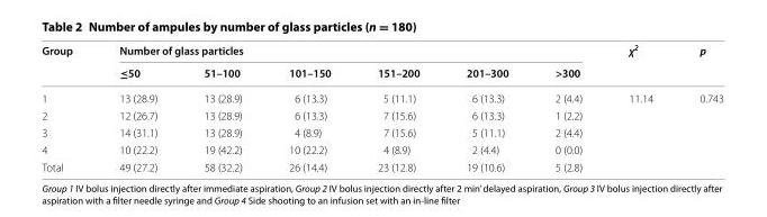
<table><thead><tr><td rowspan="2">Group</td><td colspan="6">Number of glass particles</td><td rowspan="2">χ<sup>2</sup></td><td rowspan="2">p</td></tr><tr><td>≤50</td><td>51–100</td><td>101–150</td><td>151–200</td><td>201–300</td><td>&gt;300</td></tr></thead><tbody><tr><td>1</td><td>13 (28.9)</td><td>13 (28.9)</td><td>6 (13.3)</td><td>5 (11.1)</td><td>6 (13.3)</td><td>2 (4.4)</td><td rowspan="4">11.14</td><td rowspan="4">0.743</td></tr><tr><td>2</td><td>12 (26.7)</td><td>13 (28.9)</td><td>6 (13.3)</td><td>7 (15.6)</td><td>6 (13.3)</td><td>1 (2.2)</td></tr><tr><td>3</td><td>14 (31.1)</td><td>13 (28.9)</td><td>4 (8.9)</td><td>7 (15.6)</td><td>5 (11.1)</td><td>2 (4.4)</td></tr><tr><td>4</td><td>10 (22.2)</td><td>19 (42.2)</td><td>10 (22.2)</td><td>4 (8.9)</td><td>2 (4.4)</td><td>0 (0.0)</td></tr><tr><td>Total</td><td>49 (27.2)</td><td>58 (32.2)</td><td>26 (14.4)</td><td>23 (12.8)</td><td>19 (10.6)</td><td>5 (2.8)</td><td></td><td></td></tr></tbody></table>